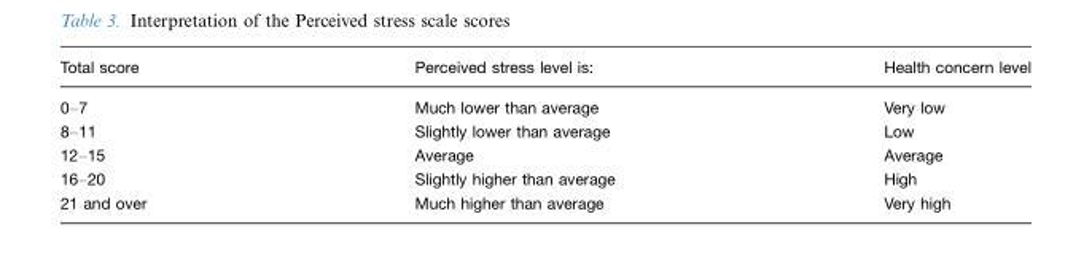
<table><thead><tr><td>Total score</td><td>Perceived stress level is:</td><td>Health concern level</td></tr></thead><tbody><tr><td>0–7</td><td>Much lower than average</td><td>Very low</td></tr><tr><td>8–11</td><td>Slightly lower than average</td><td>Low</td></tr><tr><td>12–15</td><td>Average</td><td>Average</td></tr><tr><td>16–20</td><td>Slightly higher than average</td><td>High</td></tr><tr><td>21 and over</td><td>Much higher than average</td><td>Very high</td></tr></tbody></table>